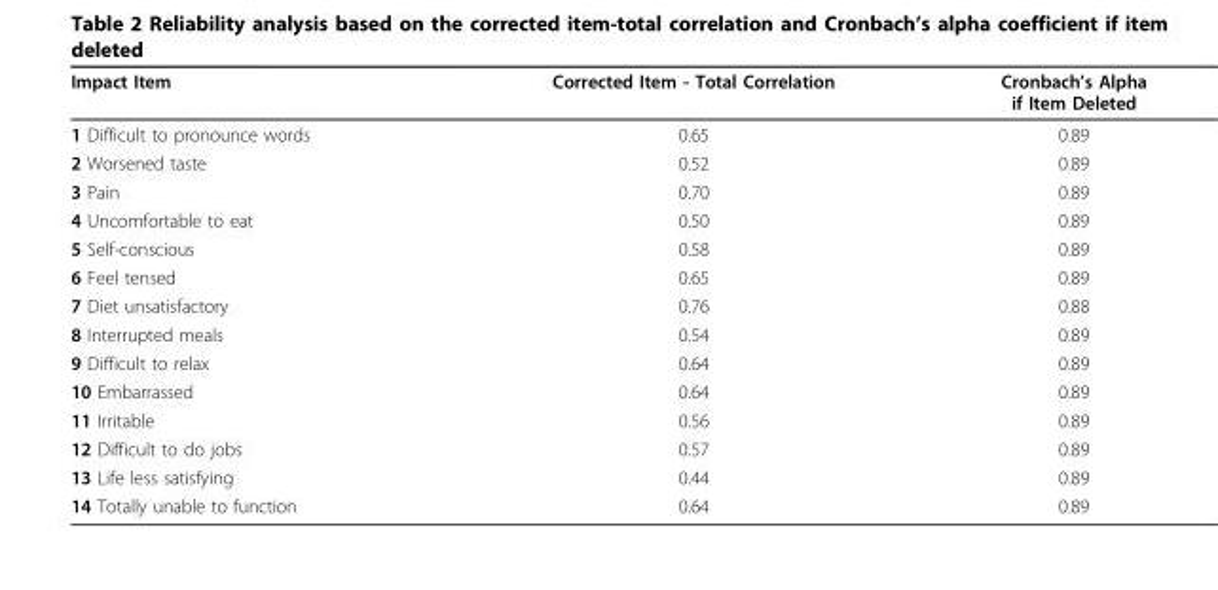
<table><thead><tr><td>Impact Item</td><td>Corrected Item - Total Correlation</td><td>Cronbach’s Alpha if Item Deleted</td></tr></thead><tbody><tr><td>1 Difficult to pronounce words</td><td>0.65</td><td>0.89</td></tr><tr><td>2 Worsened taste</td><td>0.52</td><td>0.89</td></tr><tr><td>3 Pain</td><td>0.70</td><td>0.89</td></tr><tr><td>4 Uncomfortable to eat</td><td>0.50</td><td>0.89</td></tr><tr><td>5 Self-conscious</td><td>0.58</td><td>0.89</td></tr><tr><td>6 Feel tensed</td><td>0.65</td><td>0.89</td></tr><tr><td>7 Diet unsatisfactory</td><td>0.76</td><td>0.88</td></tr><tr><td>8 Interrupted meals</td><td>0.54</td><td>0.89</td></tr><tr><td>9 Difficult to relax</td><td>0.64</td><td>0.89</td></tr><tr><td>10 Embarrassed</td><td>0.64</td><td>0.89</td></tr><tr><td>11 Irritable</td><td>0.56</td><td>0.89</td></tr><tr><td>12 Difficult to do jobs</td><td>0.57</td><td>0.89</td></tr><tr><td>13 Life less satisfying</td><td>0.44</td><td>0.89</td></tr><tr><td>14 Totally unable to function</td><td>0.64</td><td>0.89</td></tr></tbody></table>